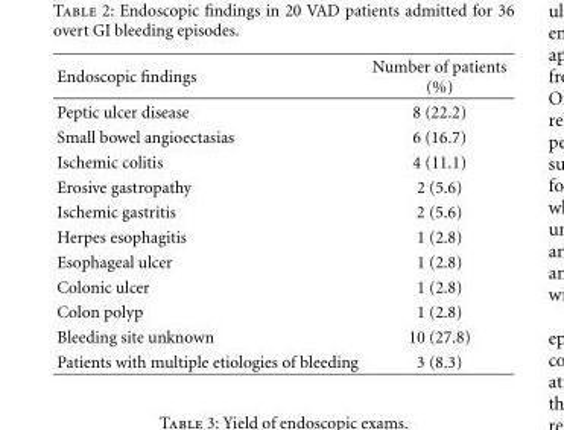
<table><thead><tr><td>Endoscopic findings</td><td>Number of patients (%)</td></tr></thead><tbody><tr><td>Peptic ulcer disease</td><td>8 (22.2)</td></tr><tr><td>Small bowel angioectasias</td><td>6 (16.7)</td></tr><tr><td>Ischemic colitis</td><td>4 (11.1)</td></tr><tr><td>Erosive gastropathy</td><td>2 (5.6)</td></tr><tr><td>Ischemic gastritis</td><td>2 (5.6)</td></tr><tr><td>Herpes esophagitis</td><td>1 (2.8)</td></tr><tr><td>Esophageal ulcer</td><td>1 (2.8)</td></tr><tr><td>Colonic ulcer</td><td>1 (2.8)</td></tr><tr><td>Colon polyp</td><td>1 (2.8)</td></tr><tr><td>Bleeding site unknown</td><td>10 (27.8)</td></tr><tr><td>Patients with multiple etiologies of bleeding</td><td>3 (8.3)</td></tr></tbody></table>